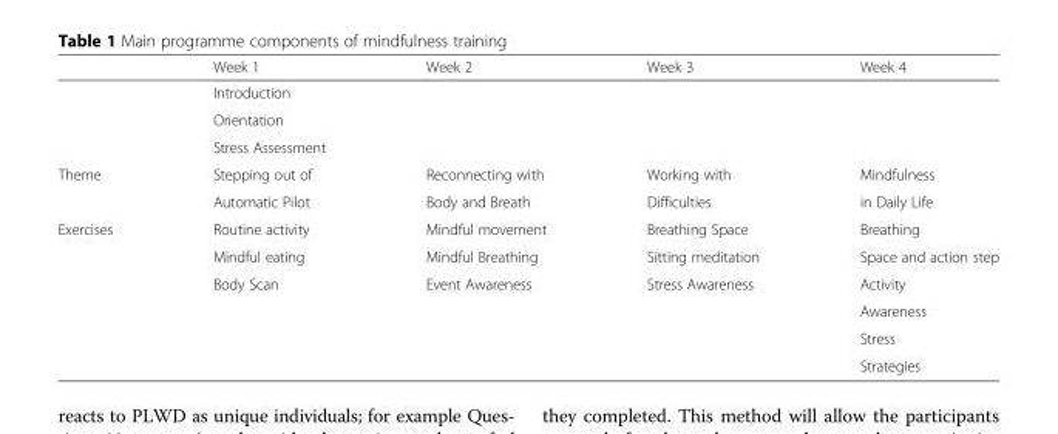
<table><thead><tr><td></td><td>Week 1</td><td>Week 2</td><td>Week 3</td><td>Week 4</td></tr></thead><tbody><tr><td></td><td>Introduction</td><td></td><td></td><td></td></tr><tr><td></td><td>Orientation</td><td></td><td></td><td></td></tr><tr><td></td><td>Stress Assessment</td><td></td><td></td><td></td></tr><tr><td rowspan="2">Theme</td><td>Stepping out of</td><td>Reconnecting with</td><td>Working with</td><td>Mindfulness</td></tr><tr><td>Automatic Pilot</td><td>Body and Breath</td><td>Difficulties</td><td>in Daily Life</td></tr><tr><td rowspan="6">Exercises</td><td>Routine activity</td><td>Mindful movement</td><td>Breathing Space</td><td>Breathing</td></tr><tr><td>Mindful eating</td><td>Mindful Breathing</td><td>Sitting meditation</td><td>Space and action step</td></tr><tr><td>Body Scan</td><td>Event Awareness</td><td>Stress Awareness</td><td>Activity</td></tr><tr><td></td><td></td><td></td><td>Awareness</td></tr><tr><td rowspan="2"></td><td rowspan="2"></td><td rowspan="2"></td><td>Stress</td></tr><tr><td>Strategies</td></tr></tbody></table>